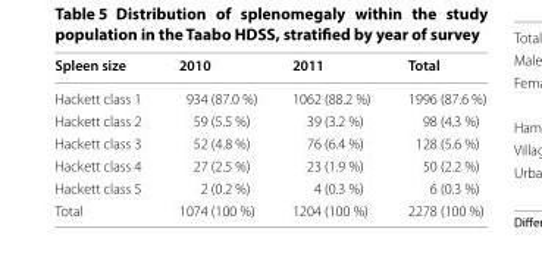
<table><thead><tr><td>Spleen size</td><td>2010</td><td>2011</td><td>Total</td></tr></thead><tbody><tr><td>Hackett class 1</td><td>934 (87.0 %)</td><td>1062 (88.2 %)</td><td>1996 (87.6 %)</td></tr><tr><td>Hackett class 2</td><td>59 (5.5 %)</td><td>39 (3.2 %)</td><td>98 (4.3 %)</td></tr><tr><td>Hackett class 3</td><td>52 (4.8 %)</td><td>76 (6.4 %)</td><td>128 (5.6 %)</td></tr><tr><td>Hackett class 4</td><td>27 (2.5 %)</td><td>23 (1.9 %)</td><td>50 (2.2 %)</td></tr><tr><td>Hackett class 5</td><td>2 (0.2 %)</td><td>4 (0.3 %)</td><td>6 (0.3 %)</td></tr><tr><td>Total</td><td>1074 (100 %)</td><td>1204 (100 %)</td><td>2278 (100 %)</td></tr></tbody></table>